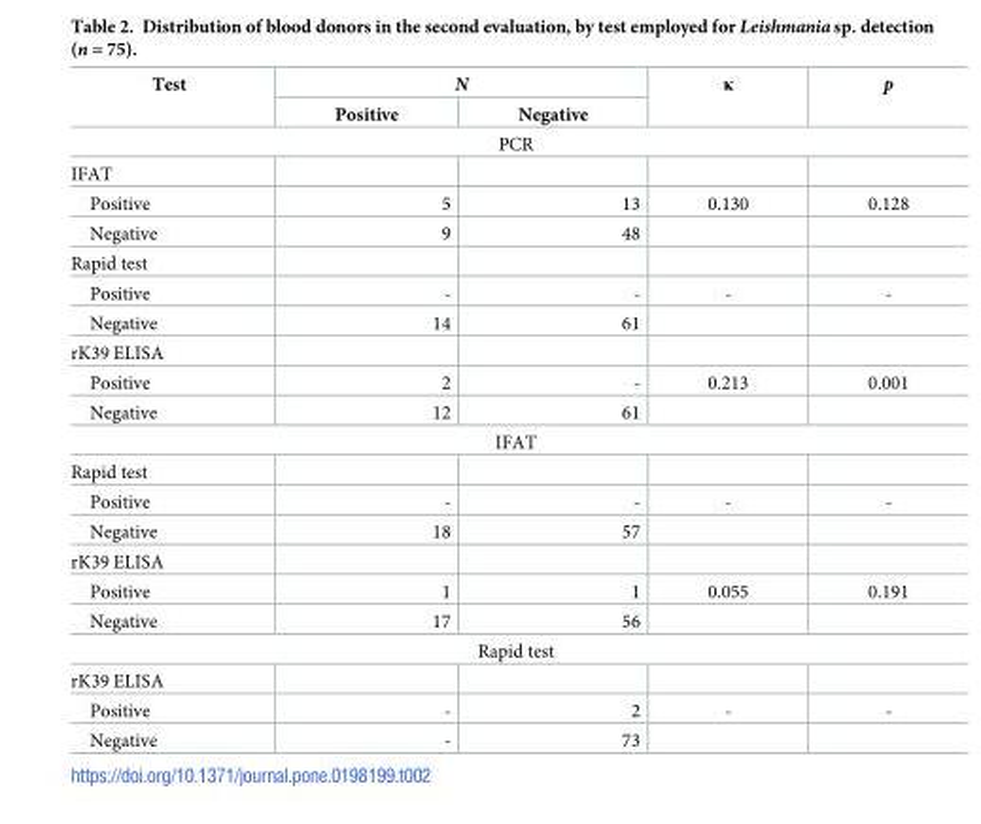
<table><thead><tr><td rowspan="2">Test</td><td colspan="2">N</td><td rowspan="2">κ</td><td rowspan="2">p</td></tr><tr><td>Positive</td><td>Negative</td></tr></thead><tbody><tr><td colspan="5">PCR</td></tr><tr><td colspan="5">IFAT</td></tr><tr><td>Positive</td><td>5</td><td>13</td><td>0.130</td><td>0.128</td></tr><tr><td>Negative</td><td>9</td><td>48</td><td></td><td></td></tr><tr><td colspan="5">Rapid test</td></tr><tr><td>Positive</td><td>-</td><td>-</td><td>-</td><td>-</td></tr><tr><td>Negative</td><td>14</td><td>61</td><td></td><td></td></tr><tr><td colspan="5">rK39 ELISA</td></tr><tr><td>Positive</td><td>2</td><td>-</td><td>0.213</td><td>0.001</td></tr><tr><td>Negative</td><td>12</td><td>61</td><td></td><td></td></tr><tr><td colspan="5">IFAT</td></tr><tr><td colspan="5">Rapid test</td></tr><tr><td>Positive</td><td>-</td><td>-</td><td>-</td><td>-</td></tr><tr><td>Negative</td><td>18</td><td>57</td><td></td><td></td></tr><tr><td colspan="5">rK39 ELISA</td></tr><tr><td>Positive</td><td>1</td><td>1</td><td>0.055</td><td>0.191</td></tr><tr><td>Negative</td><td>17</td><td>56</td><td></td><td></td></tr><tr><td colspan="5">Rapid test</td></tr><tr><td colspan="5">rK39 ELISA</td></tr><tr><td>Positive</td><td>-</td><td>2</td><td>-</td><td>-</td></tr><tr><td>Negative</td><td>-</td><td>73</td><td></td><td></td></tr></tbody></table>